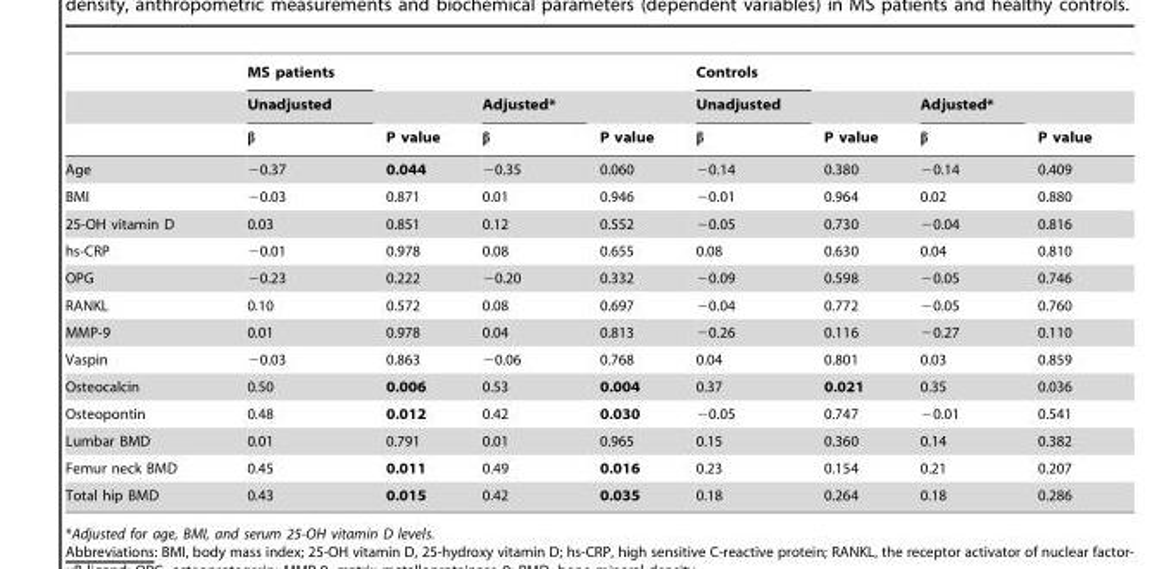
<table><thead><tr><td rowspan="3"></td><td rowspan="3">MS patients Unadjusted β</td><td rowspan="3">P value</td><td rowspan="3">Adjusted* β</td><td rowspan="3">P value</td><td rowspan="3">Controls Unadjusted β</td><td rowspan="3">P value</td><td rowspan="3">Adjusted* β</td><td rowspan="3">P value</td></tr><tr></tr><tr></tr></thead><tbody><tr><td>Age</td><td>−0.37</td><td>0.044</td><td>−0.35</td><td>0.060</td><td>−0.14</td><td>0.380</td><td>−0.14</td><td>0.409</td></tr><tr><td>BMI</td><td>−0.03</td><td>0.871</td><td>0.01</td><td>0.946</td><td>−0.01</td><td>0.964</td><td>0.02</td><td>0.880</td></tr><tr><td>25-OH vitamin D</td><td>0.03</td><td>0.851</td><td>0.12</td><td>0.552</td><td>−0.05</td><td>0.730</td><td>−0.04</td><td>0.816</td></tr><tr><td>hs-CRP</td><td>−0.01</td><td>0.978</td><td>0.08</td><td>0.655</td><td>0.08</td><td>0.630</td><td>0.04</td><td>0.810</td></tr><tr><td>OPG</td><td>−0.23</td><td>0.222</td><td>−0.20</td><td>0.332</td><td>−0.09</td><td>0.598</td><td>−0.05</td><td>0.746</td></tr><tr><td>RANKL</td><td>0.10</td><td>0.572</td><td>0.08</td><td>0.697</td><td>−0.04</td><td>0.772</td><td>−0.05</td><td>0.760</td></tr><tr><td>MMP-9</td><td>0.01</td><td>0.978</td><td>0.04</td><td>0.813</td><td>−0.26</td><td>0.116</td><td>−0.27</td><td>0.110</td></tr><tr><td>Vaspin</td><td>−0.03</td><td>0.863</td><td>−0.06</td><td>0.768</td><td>0.04</td><td>0.801</td><td>0.03</td><td>0.859</td></tr><tr><td>Osteocalcin</td><td>0.50</td><td>0.006</td><td>0.53</td><td>0.004</td><td>0.37</td><td>0.021</td><td>0.35</td><td>0.036</td></tr><tr><td>Osteopontin</td><td>0.48</td><td>0.012</td><td>0.42</td><td>0.030</td><td>−0.05</td><td>0.747</td><td>−0.01</td><td>0.541</td></tr><tr><td>Lumbar BMD</td><td>0.01</td><td>0.791</td><td>0.01</td><td>0.965</td><td>0.15</td><td>0.360</td><td>0.14</td><td>0.382</td></tr><tr><td>Femur neck BMD</td><td>0.45</td><td>0.011</td><td>0.49</td><td>0.016</td><td>0.23</td><td>0.154</td><td>0.21</td><td>0.207</td></tr><tr><td>Total hip BMD</td><td>0.43</td><td>0.015</td><td>0.42</td><td>0.035</td><td>0.18</td><td>0.264</td><td>0.18</td><td>0.286</td></tr></tbody></table>